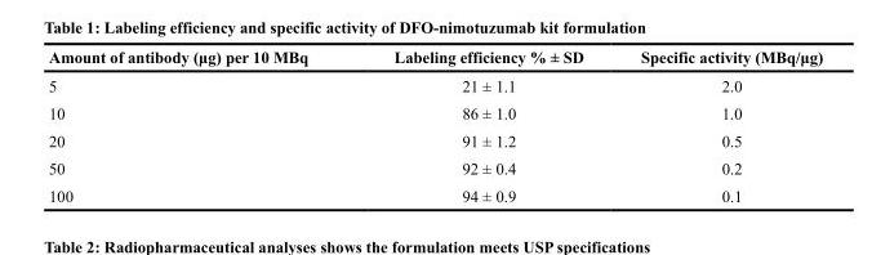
<table><thead><tr><td>Amount of antibody (μg) per 10 MBq</td><td>Labeling efficiency % ± SD</td><td>Specific activity (MBq/μg)</td></tr></thead><tbody><tr><td>5</td><td>21 ± 1.1</td><td>2.0</td></tr><tr><td>10</td><td>86 ± 1.0</td><td>1.0</td></tr><tr><td>20</td><td>91 ± 1.2</td><td>0.5</td></tr><tr><td>50</td><td>92 ± 0.4</td><td>0.2</td></tr><tr><td>100</td><td>94 ± 0.9</td><td>0.1</td></tr></tbody></table>